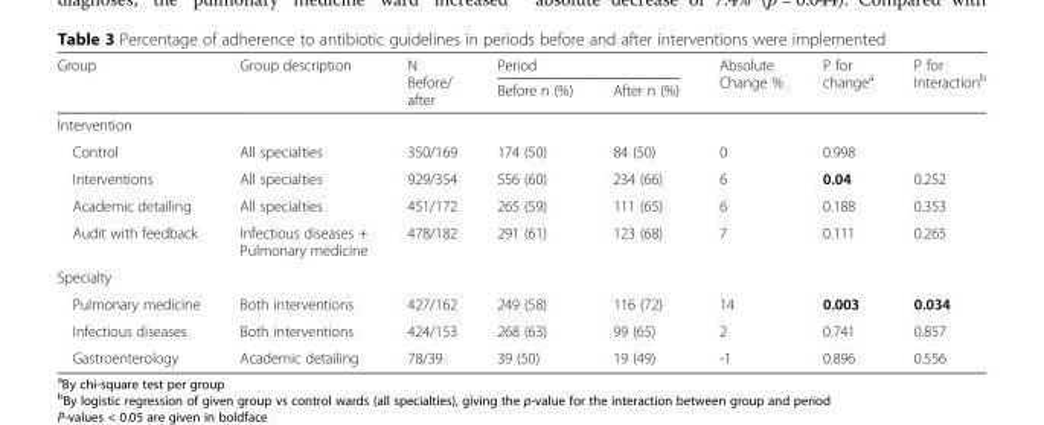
<table><thead><tr><td rowspan="2">Group</td><td rowspan="2">Group description</td><td rowspan="2">N Before/ after</td><td colspan="2">Period</td><td rowspan="2">Absolute Change %</td><td rowspan="2">P for change<sup>a</sup></td><td rowspan="2">P for Interaction<sup>b</sup></td></tr><tr><td>Before n (%)</td><td>After n (%)</td></tr></thead><tbody><tr><td colspan="8">Intervention</td></tr><tr><td>Control</td><td>All specialties</td><td>350/169</td><td>174 (50)</td><td>84 (50)</td><td>0</td><td>0.998</td><td></td></tr><tr><td>Interventions</td><td>All specialties</td><td>929/354</td><td>556 (60)</td><td>234 (66)</td><td>6</td><td>0.04</td><td>0.252</td></tr><tr><td>Academic detailing</td><td>All specialties</td><td>451/172</td><td>265 (59)</td><td>111 (65)</td><td>6</td><td>0.188</td><td>0.353</td></tr><tr><td>Audit with feedback</td><td>Infectious diseases + Pulmonary medicine</td><td>478/182</td><td>291 (61)</td><td>123 (68)</td><td>7</td><td>0.111</td><td>0.265</td></tr><tr><td colspan="8">Specialty</td></tr><tr><td>Pulmonary medicine</td><td>Both interventions</td><td>427/162</td><td>249 (58)</td><td>116 (72)</td><td>14</td><td>0.003</td><td>0.034</td></tr><tr><td>Infectious diseases</td><td>Both interventions</td><td>424/153</td><td>268 (63)</td><td>99 (65)</td><td>2</td><td>0.741</td><td>0.857</td></tr><tr><td>Gastroenterology</td><td>Academic detailing</td><td>78/39</td><td>39 (50)</td><td>19 (49)</td><td>-1</td><td>0.896</td><td>0.556</td></tr></tbody></table>